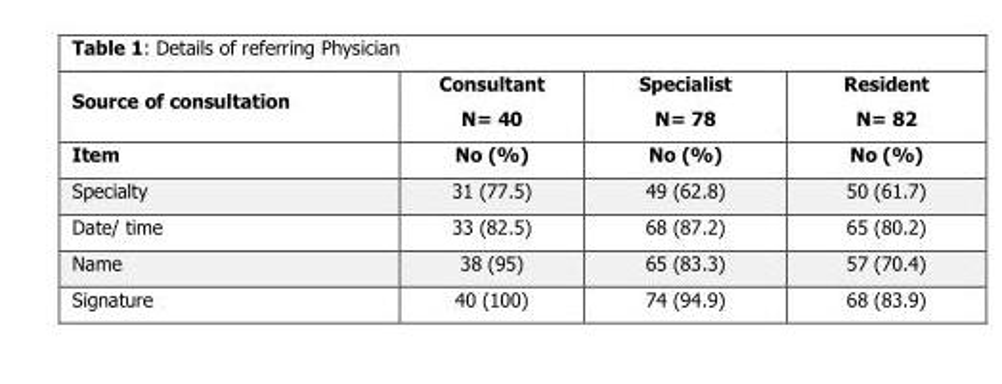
<table><thead><tr><td>Source of consultation</td><td>Consultant N= 40</td><td>Specialist N= 78</td><td>Resident N= 82</td></tr></thead><tbody><tr><td>Item</td><td>No (%)</td><td>No (%)</td><td>No (%)</td></tr><tr><td>Specialty</td><td>31 (77.5)</td><td>49 (62.8)</td><td>50 (61.7)</td></tr><tr><td>Date/ time</td><td>33 (82.5)</td><td>68 (87.2)</td><td>65 (80.2)</td></tr><tr><td>Name</td><td>38 (95)</td><td>65 (83.3)</td><td>57 (70.4)</td></tr><tr><td>Signature</td><td>40 (100)</td><td>74 (94.9)</td><td>68 (83.9)</td></tr></tbody></table>